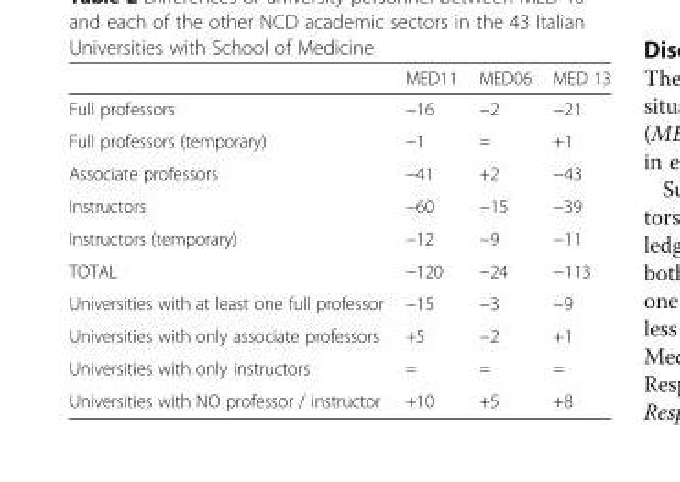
<table><thead><tr><td></td><td>MED11</td><td>MED06</td><td>MED 13</td></tr></thead><tbody><tr><td>Full professors</td><td>−16</td><td>−2</td><td>−21</td></tr><tr><td>Full professors (temporary)</td><td>−1</td><td>=</td><td>+1</td></tr><tr><td>Associate professors</td><td>−41</td><td>+2</td><td>−43</td></tr><tr><td>Instructors</td><td>−60</td><td>−15</td><td>−39</td></tr><tr><td>Instructors (temporary)</td><td>−12</td><td>−9</td><td>−11</td></tr><tr><td>TOTAL</td><td>−120</td><td>−24</td><td>−113</td></tr><tr><td>Universities with at least one full professor</td><td>−15</td><td>−3</td><td>−9</td></tr><tr><td>Universities with only associate professors</td><td>+5</td><td>−2</td><td>+1</td></tr><tr><td>Universities with only instructors</td><td>=</td><td>=</td><td>=</td></tr><tr><td>Universities with NO professor / instructor</td><td>+10</td><td>+5</td><td>+8</td></tr></tbody></table>